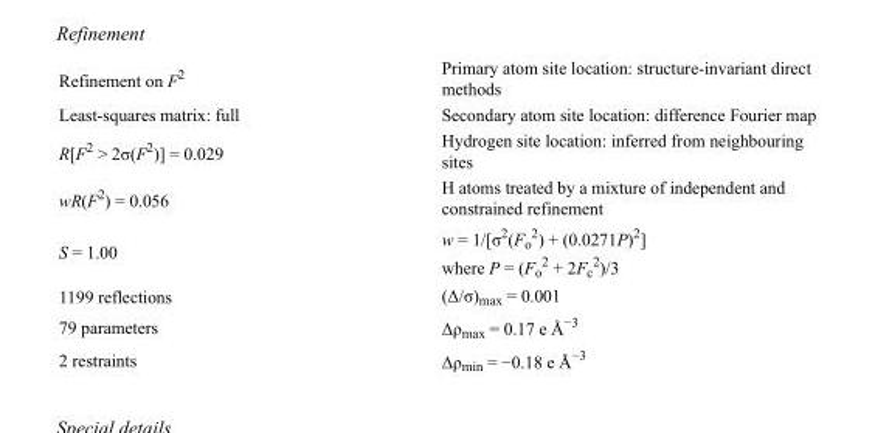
<table><tbody><tr><td>Refinement on F<sup>2</sup></td><td>Primary atom site location: structure-invariant direct methods</td></tr><tr><td>Least-squares matrix: full</td><td>Secondary atom site location: difference Fourier map</td></tr><tr><td>R[F<sup>2</sup> &gt; 2σ(F<sup>2</sup>)] = 0.029</td><td>Hydrogen site location: inferred from neighbouring sites</td></tr><tr><td>wR(F<sup>2</sup>) = 0.056</td><td>H atoms treated by a mixture of independent and constrained refinement</td></tr><tr><td>S = 1.00</td><td>w = 1/[σ<sup>2</sup>(F<sub>o</sub> <sup>2</sup>) + (0.0271P)<sup>2</sup>] where P = (F<sub>o</sub> <sup>2</sup> + 2F<sub>c</sub> <sup>2</sup>)/3</td></tr><tr><td>1199 reflections</td><td>(Δ/σ)<sub>max</sub> = 0.001</td></tr><tr><td>79 parameters</td><td>Δρ<sub>max</sub> = 0.17 e Å<sup>−3</sup></td></tr><tr><td>2 restraints</td><td>Δρ<sub>min</sub> = −0.18 e Å<sup>−3</sup></td></tr></tbody></table>